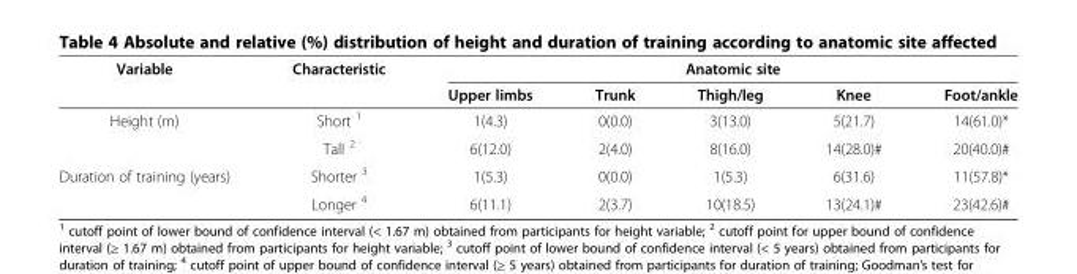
<table><thead><tr><td rowspan="2">Variable</td><td rowspan="2">Characteristic</td><td colspan="5">Anatomic site</td></tr><tr><td>Upper limbs</td><td>Trunk</td><td>Thigh/leg</td><td>Knee</td><td>Foot/ankle</td></tr></thead><tbody><tr><td rowspan="2">Height (m)</td><td>Short <sup>1</sup></td><td>1(4.3)</td><td>0(0.0)</td><td>3(13.0)</td><td>5(21.7)</td><td>14(61.0)*</td></tr><tr><td>Tall <sup>2</sup></td><td>6(12.0)</td><td>2(4.0)</td><td>8(16.0)</td><td>14(28.0)#</td><td>20(40.0)#</td></tr><tr><td rowspan="2">Duration of training (years)</td><td>Shorter <sup>3</sup></td><td>1(5.3)</td><td>0(0.0)</td><td>1(5.3)</td><td>6(31.6)</td><td>11(57.8)*</td></tr><tr><td>Longer <sup>4</sup></td><td>6(11.1)</td><td>2(3.7)</td><td>10(18.5)</td><td>13(24.1)#</td><td>23(42.6)#</td></tr></tbody></table>